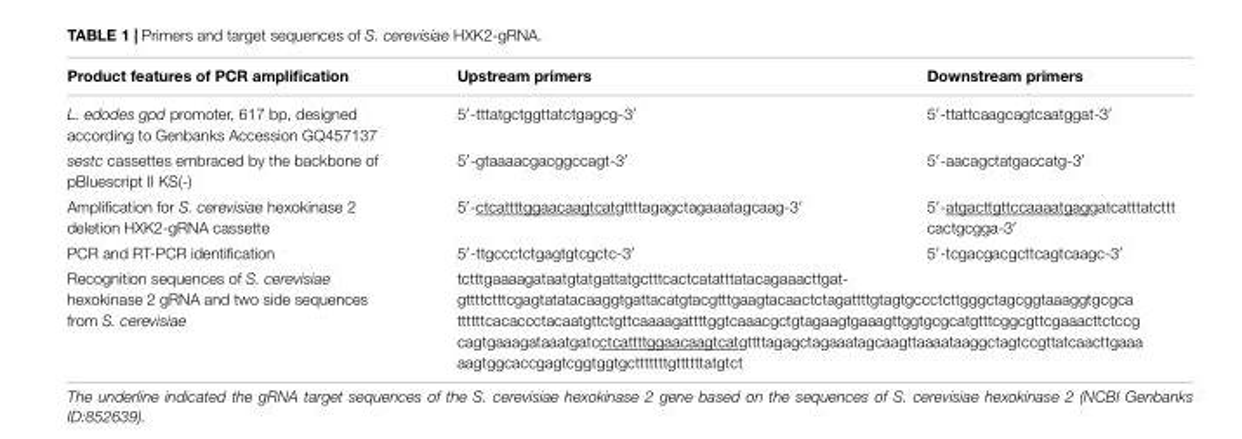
<table><thead><tr><td>Product features of PCR amplification</td><td>Upstream primers</td><td>Downstream primers</td></tr></thead><tbody><tr><td>L. edodes gpd promoter, 617 bp, designed according to Genbanks Accession GQ457137</td><td>5′-tttatgctggttatctgagcg-3′</td><td>5′-ttattcaagcagtcaatggat-3′</td></tr><tr><td>sestc cassettes embraced by the backbone of pBluescript II KS(-)</td><td>5′-gtaaaacgacggccagt-3′</td><td>5′-aacagctatgaccatg-3′</td></tr><tr><td>Amplification for S. cerevisiae hexokinase 2 deletion HXK2-gRNA cassette</td><td>5′-ctcattttggaacaagtcatgttttagagctagaaatagcaag-3′</td><td>5′-atgacttgttccaaaatgaggatcatttatcttt cactgcgga-3′</td></tr><tr><td>PCR and RT-PCR identification</td><td>5′-ttgccctctgagtgtcgctc-3′</td><td>5′-tcgacgacgcttcagtcaagc-3′</td></tr><tr><td>Recognition sequences of S. cerevisiae hexokinase 2 gRNA and two side sequences from S. cerevisiae</td><td colspan="2">tctttgaaaagataatgtatgattatgctttcactcatatttatacagaaacttgat- gttttctttcgagtatatacaaggtgattacatgtacgtttgaagtacaactctagattttgtagtgccctcttgggctagcggtaaaggtgcgca ttttttcacaccctacaatgttctgttcaaaagattttggtcaaacgctgtagaagtgaaagttggtgcgcatgtttcggcgttcgaaacttctccg cagtgaaagataaatgatcctcattttggaacaagtcatgttttagagctagaaatagcaagttaaaataaggctagtccgttatcaacttgaaa aagtggcaccgagtcggtggtgctttttttgttttttatgtct</td></tr></tbody></table>